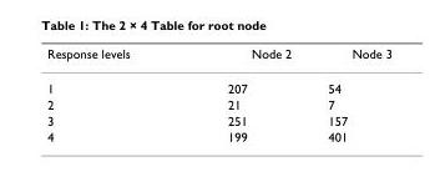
<table><thead><tr><td>Response levels</td><td>Node 2</td><td>Node 3</td></tr></thead><tbody><tr><td>1</td><td>207</td><td>54</td></tr><tr><td>2</td><td>21</td><td>7</td></tr><tr><td>3</td><td>251</td><td>157</td></tr><tr><td>4</td><td>199</td><td>401</td></tr></tbody></table>